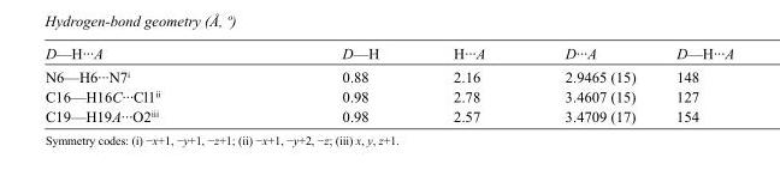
<table><tbody><tr><td>D—H···A</td><td>D—H</td><td>H···A</td><td>D···A</td><td>D—H···A</td></tr><tr><td>N6—H6···N7<sup>i</sup></td><td>0.88</td><td>2.16</td><td>2.9465 (15)</td><td>148</td></tr><tr><td>C16—H16C···Cl1<sup>ii</sup></td><td>0.98</td><td>2.78</td><td>3.4607 (15)</td><td>127</td></tr><tr><td>C19—H19A···O2<sup>iii</sup></td><td>0.98</td><td>2.57</td><td>3.4709 (17)</td><td>154</td></tr></tbody></table>